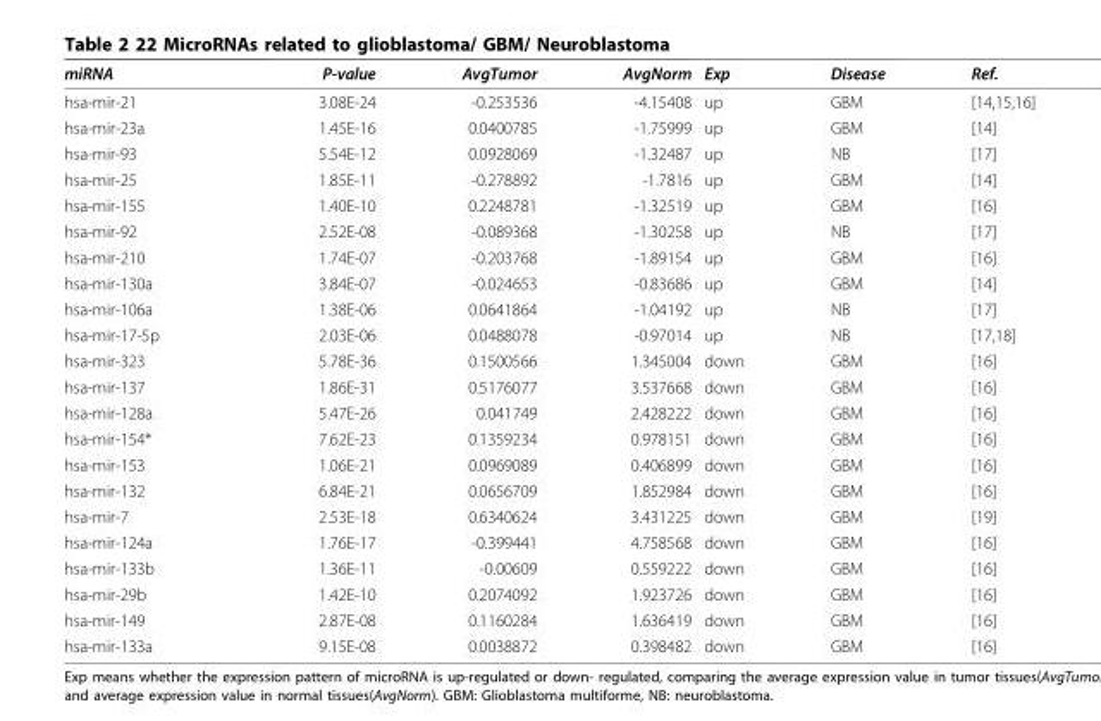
<table><thead><tr><td>miRNA</td><td>P-value</td><td>AvgTumor</td><td>AvgNorm</td><td>Exp</td><td>Disease</td><td>Ref.</td></tr></thead><tbody><tr><td>hsa-mir-21</td><td>3.08E-24</td><td>-0.253536</td><td>-4.15408</td><td>up</td><td>GBM</td><td>[14,15,16]</td></tr><tr><td>hsa-mir-23a</td><td>1.45E-16</td><td>0.0400785</td><td>-1.75999</td><td>up</td><td>GBM</td><td>[14]</td></tr><tr><td>hsa-mir-93</td><td>5.54E-12</td><td>0.0928069</td><td>-1.32487</td><td>up</td><td>NB</td><td>[17]</td></tr><tr><td>hsa-mir-25</td><td>1.85E-11</td><td>-0.278892</td><td>-1.7816</td><td>up</td><td>GBM</td><td>[14]</td></tr><tr><td>hsa-mir-155</td><td>1.40E-10</td><td>0.2248781</td><td>-1.32519</td><td>up</td><td>GBM</td><td>[16]</td></tr><tr><td>hsa-mir-92</td><td>2.52E-08</td><td>-0.089368</td><td>-1.30258</td><td>up</td><td>NB</td><td>[17]</td></tr><tr><td>hsa-mir-210</td><td>1.74E-07</td><td>-0.203768</td><td>-1.89154</td><td>up</td><td>GBM</td><td>[16]</td></tr><tr><td>hsa-mir-130a</td><td>3.84E-07</td><td>-0.024653</td><td>-0.83686</td><td>up</td><td>GBM</td><td>[14]</td></tr><tr><td>hsa-mir-106a</td><td>1.38E-06</td><td>0.0641864</td><td>-1.04192</td><td>up</td><td>NB</td><td>[17]</td></tr><tr><td>hsa-mir-17-5p</td><td>2.03E-06</td><td>0.0488078</td><td>-0.97014</td><td>up</td><td>NB</td><td>[17,18]</td></tr><tr><td>hsa-mir-323</td><td>5.78E-36</td><td>0.1500566</td><td>1.345004</td><td>down</td><td>GBM</td><td>[16]</td></tr><tr><td>hsa-mir-137</td><td>1.86E-31</td><td>0.5176077</td><td>3.537668</td><td>down</td><td>GBM</td><td>[16]</td></tr><tr><td>hsa-mir-128a</td><td>5.47E-26</td><td>0.041749</td><td>2.428222</td><td>down</td><td>GBM</td><td>[16]</td></tr><tr><td>hsa-mir-154*</td><td>7.62E-23</td><td>0.1359234</td><td>0.978151</td><td>down</td><td>GBM</td><td>[16]</td></tr><tr><td>hsa-mir-153</td><td>1.06E-21</td><td>0.0969089</td><td>0.406899</td><td>down</td><td>GBM</td><td>[16]</td></tr><tr><td>hsa-mir-132</td><td>6.84E-21</td><td>0.0656709</td><td>1.852984</td><td>down</td><td>GBM</td><td>[16]</td></tr><tr><td>hsa-mir-7</td><td>2.53E-18</td><td>0.6340624</td><td>3.431225</td><td>down</td><td>GBM</td><td>[19]</td></tr><tr><td>hsa-mir-124a</td><td>1.76E-17</td><td>-0.399441</td><td>4.758568</td><td>down</td><td>GBM</td><td>[16]</td></tr><tr><td>hsa-mir-133b</td><td>1.36E-11</td><td>-0.00609</td><td>0.559222</td><td>down</td><td>GBM</td><td>[16]</td></tr><tr><td>hsa-mir-29b</td><td>1.42E-10</td><td>0.2074092</td><td>1.923726</td><td>down</td><td>GBM</td><td>[16]</td></tr><tr><td>hsa-mir-149</td><td>2.87E-08</td><td>0.1160284</td><td>1.636419</td><td>down</td><td>GBM</td><td>[16]</td></tr><tr><td>hsa-mir-133a</td><td>9.15E-08</td><td>0.0038872</td><td>0.398482</td><td>down</td><td>GBM</td><td>[16]</td></tr></tbody></table>